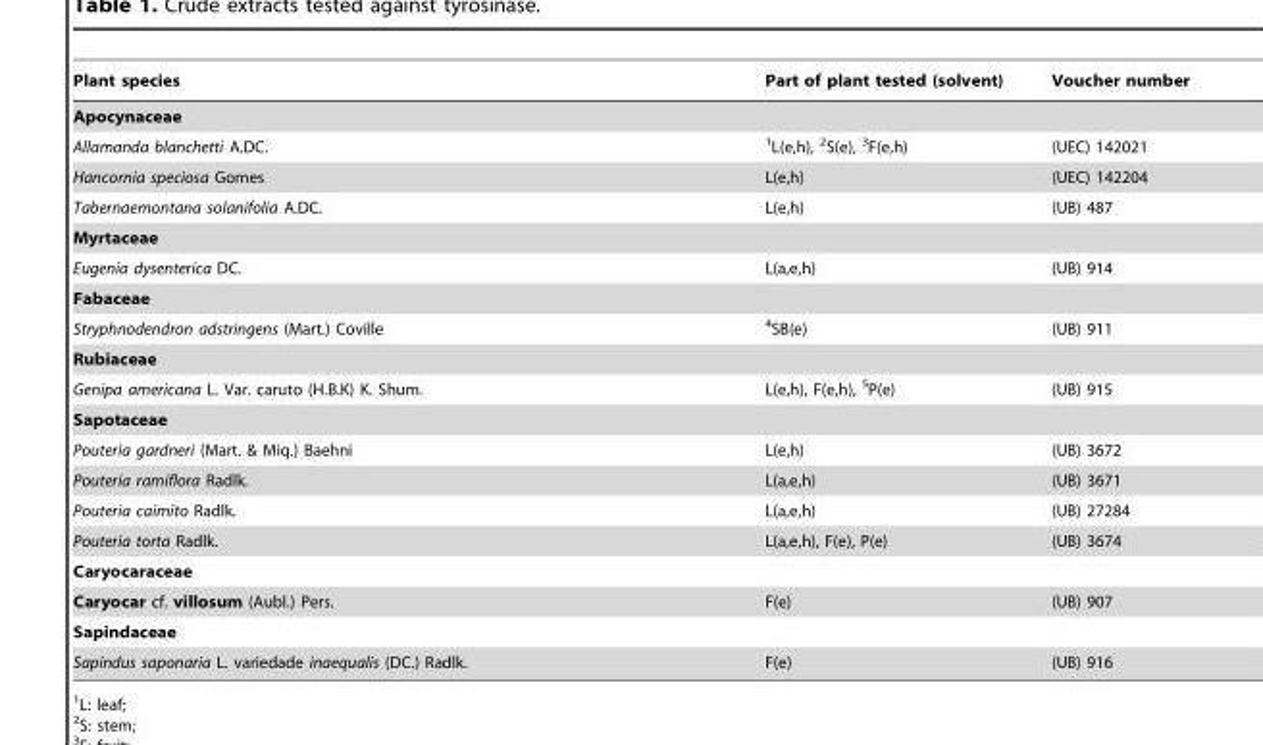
<table><thead><tr><td>Plant species</td><td>Part of plant tested (solvent)</td><td>Voucher number</td></tr></thead><tbody><tr><td colspan="3">Apocynaceae</td></tr><tr><td>Allamanda blanchetti A.DC.</td><td>1L(e,h), 2S(e), 3F(e,h)</td><td>(UEC) 142021</td></tr><tr><td>Hancornia speciosa Gomes</td><td>L(e,h)</td><td>(UEC) 142204</td></tr><tr><td>Tabernaemontana solanifolia A.DC.</td><td>L(e,h)</td><td>(UB) 487</td></tr><tr><td colspan="3">Myrtaceae</td></tr><tr><td>Eugenia dysenterica DC.</td><td>L(a,e,h)</td><td>(UB) 914</td></tr><tr><td colspan="3">Fabaceae</td></tr><tr><td>Stryphnodendron adstringens (Mart.) Coville</td><td>4SB(e)</td><td>(UB) 911</td></tr><tr><td colspan="3">Rubiaceae</td></tr><tr><td>Genipa americana L. Var. caruto (H.B.K) K. Shum.</td><td>L(e,h), F(e,h), 5P(e)</td><td>(UB) 915</td></tr><tr><td colspan="3">Sapotaceae</td></tr><tr><td>Pouteria gardneri (Mart. &amp; Miq.) Baehni</td><td>L(e,h)</td><td>(UB) 3672</td></tr><tr><td>Pouteria ramiflora Radlk.</td><td>L(a,e,h)</td><td>(UB) 3671</td></tr><tr><td>Pouteria caimito Radlk.</td><td>L(a,e,h)</td><td>(UB) 27284</td></tr><tr><td>Pouteria torta Radlk.</td><td>L(a,e,h), F(e), P(e)</td><td>(UB) 3674</td></tr><tr><td colspan="3">Caryocaraceae</td></tr><tr><td>Caryocar cf. villosum (Aubl.) Pers.</td><td>F(e)</td><td>(UB) 907</td></tr><tr><td colspan="3">Sapindaceae</td></tr><tr><td>Sapindus saponaria L. variedade inaequalis (DC.) Radlk.</td><td>F(e)</td><td>(UB) 916</td></tr></tbody></table>